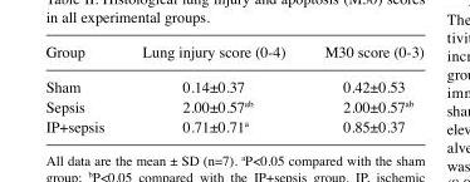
<table><thead><tr><td>Group</td><td>Lung injury score (0-4)</td><td>M30 score (0-3)</td></tr></thead><tbody><tr><td>Sham</td><td>0.14±0.37</td><td>0.42±0.53</td></tr><tr><td>Sepsis</td><td>2.00±0.57<sup>ab</sup></td><td>2.00±0.57<sup>ab</sup></td></tr><tr><td>IP+sepsis</td><td>0.71±0.71<sup>a</sup></td><td>0.85±0.37</td></tr></tbody></table>